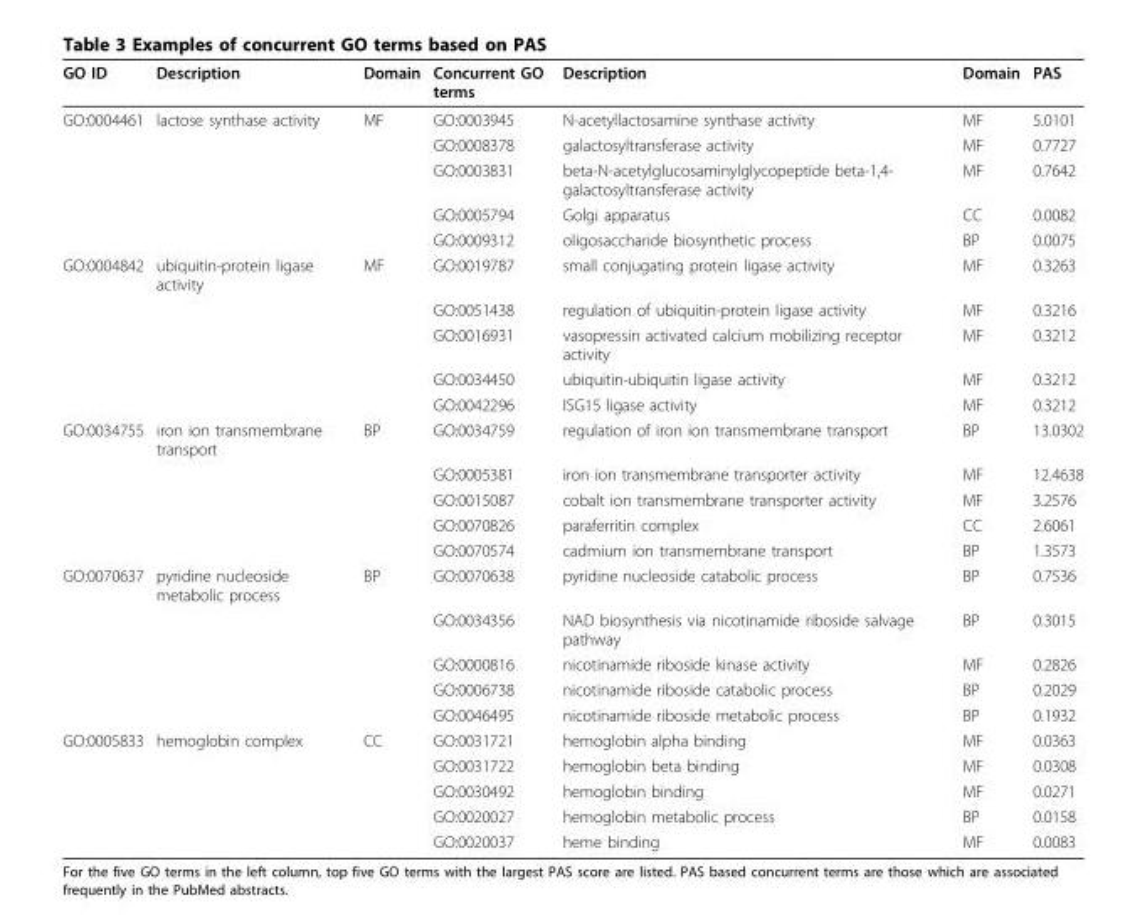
<table><thead><tr><td>GO ID</td><td>Description</td><td>Domain</td><td>Concurrent GO terms</td><td>Description</td><td>Domain</td><td>PAS</td></tr></thead><tbody><tr><td rowspan="5">GO:0004461</td><td>lactose synthase activity</td><td>MF</td><td>GO:0003945</td><td>N-acetyllactosamine synthase activity</td><td>MF</td><td>5.0101</td></tr><tr><td></td><td></td><td>GO:0008378</td><td>galactosyltransferase activity</td><td>MF</td><td>0.7727</td></tr><tr><td></td><td></td><td>GO:0003831</td><td>beta-N-acetylglucosaminylglycopeptide beta-1,4- galactosyltransferase activity</td><td>MF</td><td>0.7642</td></tr><tr><td></td><td></td><td>GO:0005794</td><td>Golgi apparatus</td><td>CC</td><td>0.0082</td></tr><tr><td></td><td></td><td>GO:0009312</td><td>oligosaccharide biosynthetic process</td><td>BP</td><td>0.0075</td></tr><tr><td rowspan="5">GO:0004842</td><td>ubiquitin-protein ligase activity</td><td>MF</td><td>GO:0019787</td><td>small conjugating protein ligase activity</td><td>MF</td><td>0.3263</td></tr><tr><td></td><td></td><td>GO:0051438</td><td>regulation of ubiquitin-protein ligase activity</td><td>MF</td><td>0.3216</td></tr><tr><td></td><td></td><td>GO:0016931</td><td>vasopressin activated calcium mobilizing receptor activity</td><td>MF</td><td>0.3212</td></tr><tr><td></td><td></td><td>GO:0034450</td><td>ubiquitin-ubiquitin ligase activity</td><td>MF</td><td>0.3212</td></tr><tr><td></td><td></td><td>GO:0042296</td><td>ISG15 ligase activity</td><td>MF</td><td>0.3212</td></tr><tr><td rowspan="5">GO:0034755</td><td>iron ion transmembrane transport</td><td>BP</td><td>GO:0034759</td><td>regulation of iron ion transmembrane transport</td><td>BP</td><td>13.0302</td></tr><tr><td></td><td></td><td>GO:0005381</td><td>iron ion transmembrane transporter activity</td><td>MF</td><td>12.4638</td></tr><tr><td></td><td></td><td>GO:0015087</td><td>cobalt ion transmembrane transporter activity</td><td>MF</td><td>3.2576</td></tr><tr><td></td><td></td><td>GO:0070826</td><td>paraferritin complex</td><td>CC</td><td>2.6061</td></tr><tr><td></td><td></td><td>GO:0070574</td><td>cadmium ion transmembrane transport</td><td>BP</td><td>1.3573</td></tr><tr><td rowspan="5">GO:0070637</td><td>pyridine nucleoside metabolic process</td><td>BP</td><td>GO:0070638</td><td>pyridine nucleoside catabolic process</td><td>BP</td><td>0.7536</td></tr><tr><td></td><td></td><td>GO:0034356</td><td>NAD biosynthesis via nicotinamide riboside salvage pathway</td><td>BP</td><td>0.3015</td></tr><tr><td></td><td></td><td>GO:0000816</td><td>nicotinamide riboside kinase activity</td><td>MF</td><td>0.2826</td></tr><tr><td></td><td></td><td>GO:0006738</td><td>nicotinamide riboside catabolic process</td><td>BP</td><td>0.2029</td></tr><tr><td></td><td></td><td>GO:0046495</td><td>nicotinamide riboside metabolic process</td><td>BP</td><td>0.1932</td></tr><tr><td rowspan="5">GO:0005833</td><td>hemoglobin complex</td><td>CC</td><td>GO:0031721</td><td>hemoglobin alpha binding</td><td>MF</td><td>0.0363</td></tr><tr><td></td><td></td><td>GO:0031722</td><td>hemoglobin beta binding</td><td>MF</td><td>0.0308</td></tr><tr><td></td><td></td><td>GO:0030492</td><td>hemoglobin binding</td><td>MF</td><td>0.0271</td></tr><tr><td></td><td></td><td>GO:0020027</td><td>hemoglobin metabolic process</td><td>BP</td><td>0.0158</td></tr><tr><td></td><td></td><td>GO:0020037</td><td>heme binding</td><td>MF</td><td>0.0083</td></tr></tbody></table>